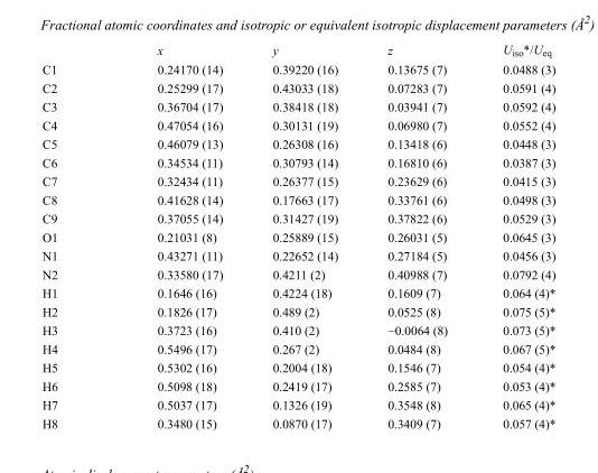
<table><thead><tr><td></td><td>x</td><td>y</td><td>z</td><td>U<sub>iso</sub>*/U<sub>eq</sub></td></tr></thead><tbody><tr><td>C1</td><td>0.24170 (14)</td><td>0.39220 (16)</td><td>0.13675 (7)</td><td>0.0488 (3)</td></tr><tr><td>C2</td><td>0.25299 (17)</td><td>0.43033 (18)</td><td>0.07283 (7)</td><td>0.0591 (4)</td></tr><tr><td>C3</td><td>0.36704 (17)</td><td>0.38418 (18)</td><td>0.03941 (7)</td><td>0.0592 (4)</td></tr><tr><td>C4</td><td>0.47054 (16)</td><td>0.30131 (19)</td><td>0.06980 (7)</td><td>0.0552 (4)</td></tr><tr><td>C5</td><td>0.46079 (13)</td><td>0.26308 (16)</td><td>0.13418 (6)</td><td>0.0448 (3)</td></tr><tr><td>C6</td><td>0.34534 (11)</td><td>0.30793 (14)</td><td>0.16810 (6)</td><td>0.0387 (3)</td></tr><tr><td>C7</td><td>0.32434 (11)</td><td>0.26377 (15)</td><td>0.23629 (6)</td><td>0.0415 (3)</td></tr><tr><td>C8</td><td>0.41628 (14)</td><td>0.17663 (17)</td><td>0.33761 (6)</td><td>0.0498 (3)</td></tr><tr><td>C9</td><td>0.37055 (14)</td><td>0.31427 (19)</td><td>0.37822 (6)</td><td>0.0529 (3)</td></tr><tr><td>O1</td><td>0.21031 (8)</td><td>0.25889 (15)</td><td>0.26031 (5)</td><td>0.0645 (3)</td></tr><tr><td>N1</td><td>0.43271 (11)</td><td>0.22652 (14)</td><td>0.27184 (5)</td><td>0.0456 (3)</td></tr><tr><td>N2</td><td>0.33580 (17)</td><td>0.4211 (2)</td><td>0.40988 (7)</td><td>0.0792 (4)</td></tr><tr><td>H1</td><td>0.1646 (16)</td><td>0.4224 (18)</td><td>0.1609 (7)</td><td>0.064 (4)*</td></tr><tr><td>H2</td><td>0.1826 (17)</td><td>0.489 (2)</td><td>0.0525 (8)</td><td>0.075 (5)*</td></tr><tr><td>H3</td><td>0.3723 (16)</td><td>0.410 (2)</td><td>−0.0064 (8)</td><td>0.073 (5)*</td></tr><tr><td>H4</td><td>0.5496 (17)</td><td>0.267 (2)</td><td>0.0484 (8)</td><td>0.067 (5)*</td></tr><tr><td>H5</td><td>0.5302 (16)</td><td>0.2004 (18)</td><td>0.1546 (7)</td><td>0.054 (4)*</td></tr><tr><td>H6</td><td>0.5098 (18)</td><td>0.2419 (17)</td><td>0.2585 (7)</td><td>0.053 (4)*</td></tr><tr><td>H7</td><td>0.5037 (17)</td><td>0.1326 (19)</td><td>0.3548 (8)</td><td>0.065 (4)*</td></tr><tr><td>H8</td><td>0.3480 (15)</td><td>0.0870 (17)</td><td>0.3409 (7)</td><td>0.057 (4)*</td></tr></tbody></table>